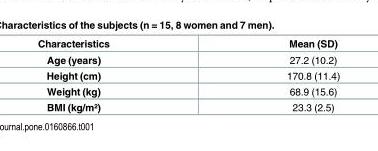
<table><thead><tr><td>Characteristics</td><td>Mean (SD)</td></tr></thead><tbody><tr><td>Age (years)</td><td>27.2 (10.2)</td></tr><tr><td>Height (cm)</td><td>170.8 (11.4)</td></tr><tr><td>Weight (kg)</td><td>68.9 (15.6)</td></tr><tr><td>BMI (kg/m²)</td><td>23.3 (2.5)</td></tr></tbody></table>